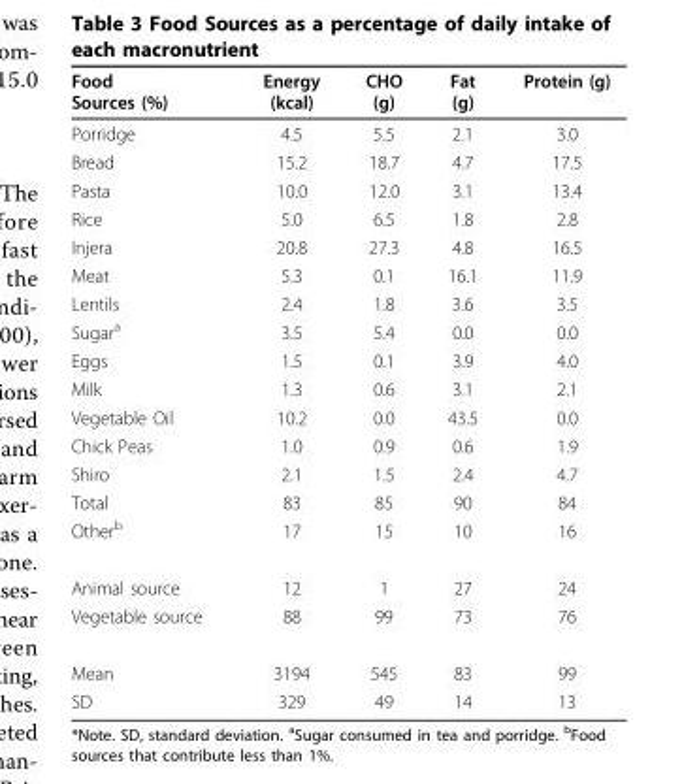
<table><thead><tr><td>Food Sources (%)</td><td>Energy (kcal)</td><td>CHO (g)</td><td>Fat (g)</td><td>Protein (g)</td></tr></thead><tbody><tr><td>Porridge</td><td>4.5</td><td>5.5</td><td>2.1</td><td>3.0</td></tr><tr><td>Bread</td><td>15.2</td><td>18.7</td><td>4.7</td><td>17.5</td></tr><tr><td>Pasta</td><td>10.0</td><td>12.0</td><td>3.1</td><td>13.4</td></tr><tr><td>Rice</td><td>5.0</td><td>6.5</td><td>1.8</td><td>2.8</td></tr><tr><td>Injera</td><td>20.8</td><td>27.3</td><td>4.8</td><td>16.5</td></tr><tr><td>Meat</td><td>5.3</td><td>0.1</td><td>16.1</td><td>11.9</td></tr><tr><td>Lentils</td><td>2.4</td><td>1.8</td><td>3.6</td><td>3.5</td></tr><tr><td>Sugar<sup>a</sup></td><td>3.5</td><td>5.4</td><td>0.0</td><td>0.0</td></tr><tr><td>Eggs</td><td>1.5</td><td>0.1</td><td>3.9</td><td>4.0</td></tr><tr><td>Milk</td><td>1.3</td><td>0.6</td><td>3.1</td><td>2.1</td></tr><tr><td>Vegetable Oil</td><td>10.2</td><td>0.0</td><td>43.5</td><td>0.0</td></tr><tr><td>Chick Peas</td><td>1.0</td><td>0.9</td><td>0.6</td><td>1.9</td></tr><tr><td>Shiro</td><td>2.1</td><td>1.5</td><td>2.4</td><td>4.7</td></tr><tr><td>Total</td><td>83</td><td>85</td><td>90</td><td>84</td></tr><tr><td>Other<sup>b</sup></td><td>17</td><td>15</td><td>10</td><td>16</td></tr><tr><td>Animal source</td><td>12</td><td>1</td><td>27</td><td>24</td></tr><tr><td>Vegetable source</td><td>88</td><td>99</td><td>73</td><td>76</td></tr><tr><td>Mean</td><td>3194</td><td>545</td><td>83</td><td>99</td></tr><tr><td>SD</td><td>329</td><td>49</td><td>14</td><td>13</td></tr></tbody></table>